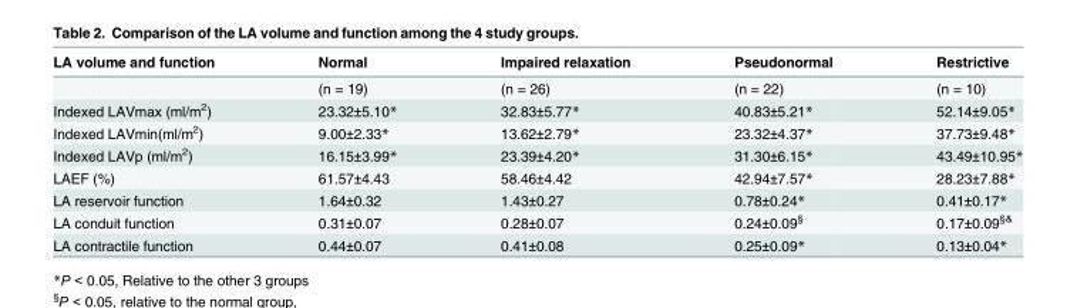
<table><thead><tr><td>LA volume and function</td><td>Normal</td><td>Impaired relaxation</td><td>Pseudonormal</td><td>Restrictive</td></tr></thead><tbody><tr><td></td><td>(n = 19)</td><td>(n = 26)</td><td>(n = 22)</td><td>(n = 10)</td></tr><tr><td>Indexed LAVmax (ml/m<sup>2</sup>)</td><td>23.32±5.10*</td><td>32.83±5.77*</td><td>40.83±5.21*</td><td>52.14±9.05*</td></tr><tr><td>Indexed LAVmin(ml/m<sup>2</sup>)</td><td>9.00±2.33*</td><td>13.62±2.79*</td><td>23.32±4.37*</td><td>37.73±9.48*</td></tr><tr><td>Indexed LAVp (ml/m<sup>2</sup>)</td><td>16.15±3.99*</td><td>23.39±4.20*</td><td>31.30±6.15*</td><td>43.49±10.95*</td></tr><tr><td>LAEF (%)</td><td>61.57±4.43</td><td>58.46±4.42</td><td>42.94±7.57*</td><td>28.23±7.88*</td></tr><tr><td>LA reservoir function</td><td>1.64±0.32</td><td>1.43±0.27</td><td>0.78±0.24*</td><td>0.41±0.17*</td></tr><tr><td>LA conduit function</td><td>0.31±0.07</td><td>0.28±0.07</td><td>0.24±0.09<sup>§</sup></td><td>0.17±0.09<sup>§&amp;</sup></td></tr><tr><td>LA contractile function</td><td>0.44±0.07</td><td>0.41±0.08</td><td>0.25±0.09*</td><td>0.13±0.04*</td></tr></tbody></table>